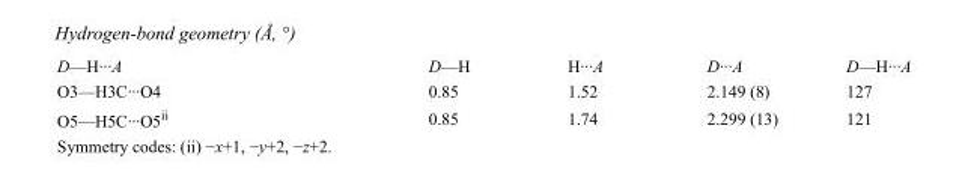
<table><tbody><tr><td>D—H···A</td><td>D—H</td><td>H···A</td><td>D···A</td><td>D—H···A</td></tr><tr><td>O3—H3C···O4</td><td>0.85</td><td>1.52</td><td>2.149 (8)</td><td>127</td></tr><tr><td>O5—H5C···O5<sup>ii</sup></td><td>0.85</td><td>1.74</td><td>2.299 (13)</td><td>121</td></tr></tbody></table>